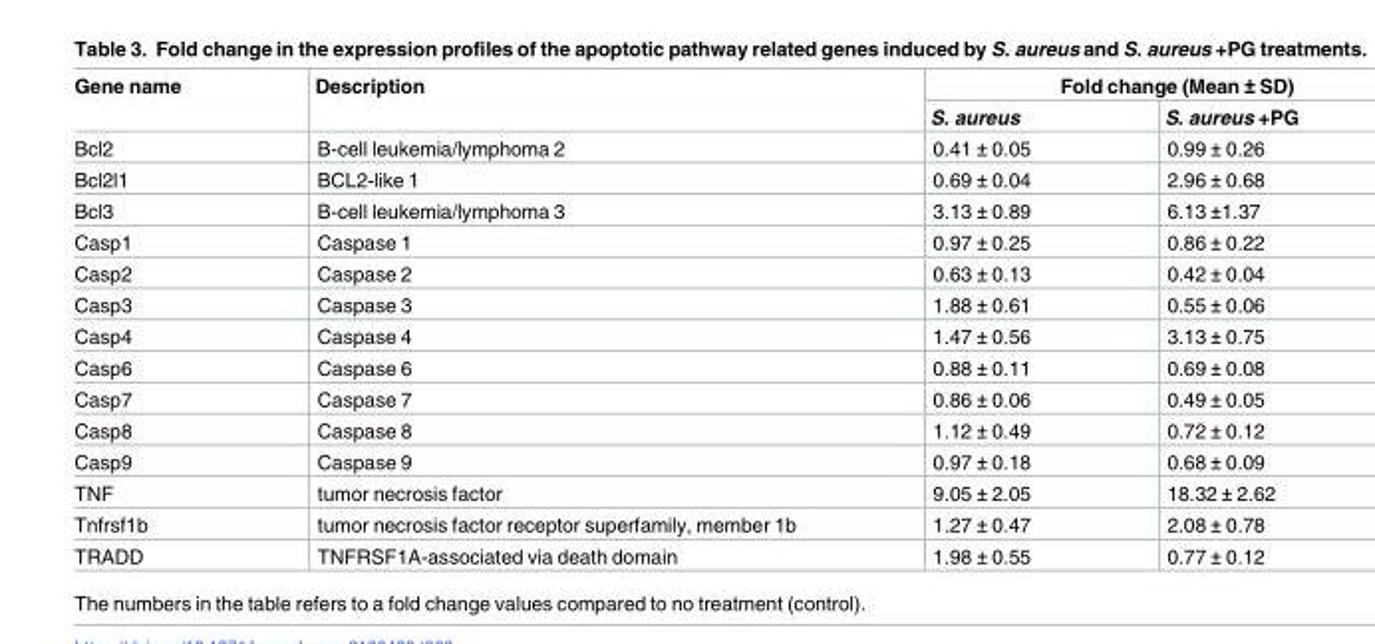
<table><thead><tr><td rowspan="2">Gene name</td><td rowspan="2">Description</td><td colspan="2">Fold change (Mean ± SD)</td></tr><tr><td>S. aureus</td><td>S. aureus +PG</td></tr></thead><tbody><tr><td>Bcl2</td><td>B-cell leukemia/lymphoma 2</td><td>0.41 ± 0.05</td><td>0.99 ± 0.26</td></tr><tr><td>Bcl2l1</td><td>BCL2-like 1</td><td>0.69 ± 0.04</td><td>2.96 ± 0.68</td></tr><tr><td>Bcl3</td><td>B-cell leukemia/lymphoma 3</td><td>3.13 ± 0.89</td><td>6.13 ±1.37</td></tr><tr><td>Casp1</td><td>Caspase 1</td><td>0.97 ± 0.25</td><td>0.86 ± 0.22</td></tr><tr><td>Casp2</td><td>Caspase 2</td><td>0.63 ± 0.13</td><td>0.42 ± 0.04</td></tr><tr><td>Casp3</td><td>Caspase 3</td><td>1.88 ± 0.61</td><td>0.55 ± 0.06</td></tr><tr><td>Casp4</td><td>Caspase 4</td><td>1.47 ± 0.56</td><td>3.13 ± 0.75</td></tr><tr><td>Casp6</td><td>Caspase 6</td><td>0.88 ± 0.11</td><td>0.69 ± 0.08</td></tr><tr><td>Casp7</td><td>Caspase 7</td><td>0.86 ± 0.06</td><td>0.49 ± 0.05</td></tr><tr><td>Casp8</td><td>Caspase 8</td><td>1.12 ± 0.49</td><td>0.72 ± 0.12</td></tr><tr><td>Casp9</td><td>Caspase 9</td><td>0.97 ± 0.18</td><td>0.68 ± 0.09</td></tr><tr><td>TNF</td><td>tumor necrosis factor</td><td>9.05 ± 2.05</td><td>18.32 ± 2.62</td></tr><tr><td>Tnfrsf1b</td><td>tumor necrosis factor receptor superfamily, member 1b</td><td>1.27 ± 0.47</td><td>2.08 ± 0.78</td></tr><tr><td>TRADD</td><td>TNFRSF1A-associated via death domain</td><td>1.98 ± 0.55</td><td>0.77 ± 0.12</td></tr></tbody></table>